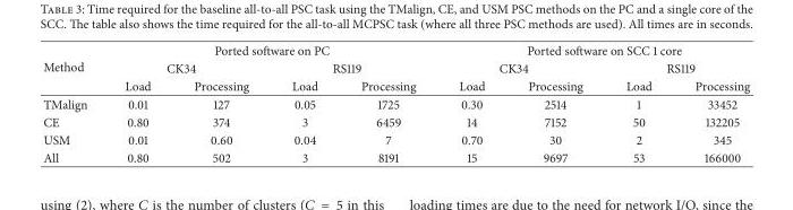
<table><thead><tr><td rowspan="3">Method</td><td colspan="4">Ported software on PC</td><td colspan="4">Ported software on SCC 1 core</td></tr><tr><td colspan="2">CK34</td><td colspan="2">RS119</td><td colspan="2">CK34</td><td colspan="2">RS119</td></tr><tr><td>Load</td><td>Processing</td><td>Load</td><td>Processing</td><td>Load</td><td>Processing</td><td>Load</td><td>Processing</td></tr></thead><tbody><tr><td>TMalign</td><td>0.01</td><td>127</td><td>0.05</td><td>1725</td><td>0.30</td><td>2514</td><td>1</td><td>33452</td></tr><tr><td>CE</td><td>0.80</td><td>374</td><td>3</td><td>6459</td><td>14</td><td>7152</td><td>50</td><td>132205</td></tr><tr><td>USM</td><td>0.01</td><td>0.60</td><td>0.04</td><td>7</td><td>0.70</td><td>30</td><td>2</td><td>345</td></tr><tr><td>All</td><td>0.80</td><td>502</td><td>3</td><td>8191</td><td>15</td><td>9697</td><td>53</td><td>166000</td></tr></tbody></table>